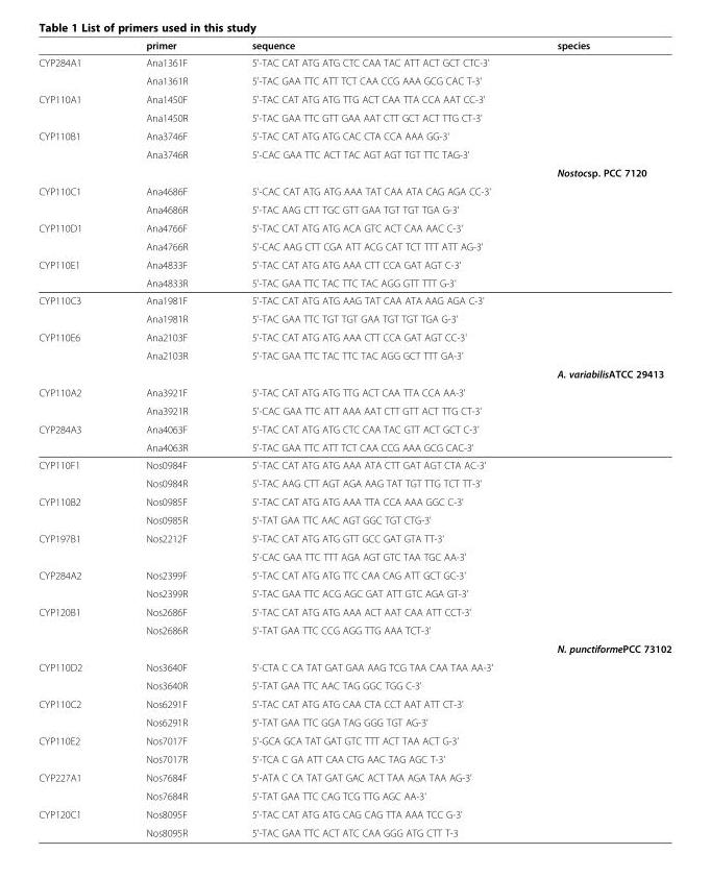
<table><thead><tr><td></td><td>primer</td><td>sequence</td><td>species</td></tr></thead><tbody><tr><td rowspan="2">CYP284A1</td><td>Ana1361F</td><td>5&#x27;-TAC CAT ATG ATG CTC CAA TAC ATT ACT GCT CTC-3&#x27;</td><td></td></tr><tr><td>Ana1361R</td><td>5&#x27;-TAC GAA TTC ATT TCT CAA CCG AAA GCG CAC T-3&#x27;</td><td></td></tr><tr><td rowspan="2">CYP110A1</td><td>Ana1450F</td><td>5&#x27;-TAC CAT ATG ATG TTG ACT CAA TTA CCA AAT CC-3&#x27;</td><td></td></tr><tr><td>Ana1450R</td><td>5&#x27;-TAC GAA TTC GTT GAA AAT CTT GCT ACT TTG CT-3&#x27;</td><td></td></tr><tr><td rowspan="3">CYP110B1</td><td>Ana3746F</td><td>5&#x27;-TAC CAT ATG ATG CAC CTA CCA AAA GG-3&#x27;</td><td></td></tr><tr><td>Ana3746R</td><td>5&#x27;-CAC GAA TTC ACT TAC AGT AGT TGT TTC TAG-3&#x27;</td><td></td></tr><tr><td></td><td></td><td>Nostocsp. PCC 7120</td></tr><tr><td rowspan="2">CYP110C1</td><td>Ana4686F</td><td>5&#x27;-CAC CAT ATG ATG AAA TAT CAA ATA CAG AGA CC-3&#x27;</td><td></td></tr><tr><td>Ana4686R</td><td>5&#x27;-TAC AAG CTT TGC GTT GAA TGT TGT TGA G-3&#x27;</td><td></td></tr><tr><td rowspan="2">CYP110D1</td><td>Ana4766F</td><td>5&#x27;-TAC CAT ATG ATG ACA GTC ACT CAA AAC C-3&#x27;</td><td></td></tr><tr><td>Ana4766R</td><td>5&#x27;-CAC AAG CTT CGA ATT ACG CAT TCT TTT ATT AG-3&#x27;</td><td></td></tr><tr><td rowspan="2">CYP110E1</td><td>Ana4833F</td><td>5&#x27;-TAC CAT ATG ATG AAA CTT CCA GAT AGT C-3&#x27;</td><td></td></tr><tr><td>Ana4833R</td><td>5&#x27;-TAC GAA TTC TAC TTC TAC AGG GTT TTT G-3&#x27;</td><td></td></tr><tr><td rowspan="2">CYP110C3</td><td>Ana1981F</td><td>5&#x27;-TAC CAT ATG ATG AAG TAT CAA ATA AAG AGA C-3&#x27;</td><td></td></tr><tr><td>Ana1981R</td><td>5&#x27;-TAC GAA TTC TGT TGT GAA TGT TGT TGA G-3&#x27;</td><td></td></tr><tr><td rowspan="3">CYP110E6</td><td>Ana2103F</td><td>5&#x27;-TAC CAT ATG ATG AAA CTT CCA GAT AGT CC-3&#x27;</td><td></td></tr><tr><td>Ana2103R</td><td>5&#x27;-TAC GAA TTC TAC TTC TAC AGG GCT TTT GA-3&#x27;</td><td></td></tr><tr><td></td><td></td><td>A. variabilisATCC 29413</td></tr><tr><td rowspan="2">CYP110A2</td><td>Ana3921F</td><td>5&#x27;-TAC CAT ATG ATG TTG ACT CAA TTA CCA AA-3&#x27;</td><td></td></tr><tr><td>Ana3921R</td><td>5&#x27;-CAC GAA TTC ATT AAA AAT CTT GTT ACT TTG CT-3&#x27;</td><td></td></tr><tr><td rowspan="2">CYP284A3</td><td>Ana4063F</td><td>5&#x27;-TAC CAT ATG ATG CTC CAA TAC GTT ACT GCT C-3&#x27;</td><td></td></tr><tr><td>Ana4063R</td><td>5&#x27;-TAC GAA TTC ATT TCT CAA CCG AAA GCG CAC-3&#x27;</td><td></td></tr><tr><td rowspan="2">CYP110F1</td><td>Nos0984F</td><td>5&#x27;-TAC CAT ATG ATG AAA ATA CTT GAT AGT CTA AC-3&#x27;</td><td></td></tr><tr><td>Nos0984R</td><td>5&#x27;-TAC AAG CTT AGT AGA AAG TAT TGT TTG TCT TT-3&#x27;</td><td></td></tr><tr><td rowspan="2">CYP110B2</td><td>Nos0985F</td><td>5&#x27;-TAC CAT ATG ATG AAA TTA CCA AAA GGC C-3&#x27;</td><td></td></tr><tr><td>Nos0985R</td><td>5&#x27;-TAT GAA TTC AAC AGT GGC TGT CTG-3&#x27;</td><td></td></tr><tr><td rowspan="2">CYP197B1</td><td>Nos2212F</td><td>5&#x27;-TAC CAT ATG ATG GTT GCC GAT GTA TT-3&#x27;</td><td></td></tr><tr><td></td><td>5&#x27;-CAC GAA TTC TTT AGA AGT GTC TAA TGC AA-3&#x27;</td><td></td></tr><tr><td rowspan="2">CYP284A2</td><td>Nos2399F</td><td>5&#x27;-TAC CAT ATG ATG TTC CAA CAG ATT GCT GC-3&#x27;</td><td></td></tr><tr><td>Nos2399R</td><td>5&#x27;-TAC GAA TTC ACG AGC GAT ATT GTC AGA GT-3&#x27;</td><td></td></tr><tr><td rowspan="3">CYP120B1</td><td>Nos2686F</td><td>5&#x27;-TAC CAT ATG ATG AAA ACT AAT CAA ATT CCT-3&#x27;</td><td></td></tr><tr><td>Nos2686R</td><td>5&#x27;-TAT GAA TTC CCG AGG TTG AAA TCT-3&#x27;</td><td></td></tr><tr><td></td><td></td><td>N. punctiformePCC 73102</td></tr><tr><td rowspan="2">CYP110D2</td><td>Nos3640F</td><td>5&#x27;-CTA C CA TAT GAT GAA AAG TCG TAA CAA TAA AA-3&#x27;</td><td></td></tr><tr><td>Nos3640R</td><td>5&#x27;-TAT GAA TTC AAC TAG GGC TGG C-3&#x27;</td><td></td></tr><tr><td rowspan="2">CYP110C2</td><td>Nos6291F</td><td>5&#x27;-TAC CAT ATG ATG CAA CTA CCT AAT ATT CT-3&#x27;</td><td></td></tr><tr><td>Nos6291R</td><td>5&#x27;-TAT GAA TTC GGA TAG GGG TGT AG-3&#x27;</td><td></td></tr><tr><td rowspan="2">CYP110E2</td><td>Nos7017F</td><td>5&#x27;-GCA GCA TAT GAT GTC TTT ACT TAA ACT G-3&#x27;</td><td></td></tr><tr><td>Nos7017R</td><td>5&#x27;-TCA C GA ATT CAA CTG AAC TAG AGC T-3&#x27;</td><td></td></tr><tr><td rowspan="2">CYP227A1</td><td>Nos7684F</td><td>5&#x27;-ATA C CA TAT GAT GAC ACT TAA AGA TAA AG-3&#x27;</td><td></td></tr><tr><td>Nos7684R</td><td>5&#x27;-TAT GAA TTC CAG TCG TTG AGC AA-3&#x27;</td><td></td></tr><tr><td rowspan="2">CYP120C1</td><td>Nos8095F</td><td>5&#x27;-TAC CAT ATG ATG CAG CAG TTA AAA TCC G-3&#x27;</td><td></td></tr><tr><td>Nos8095R</td><td>5&#x27;-TAC GAA TTC ACT ATC CAA GGG ATG CTT T-3</td><td></td></tr></tbody></table>